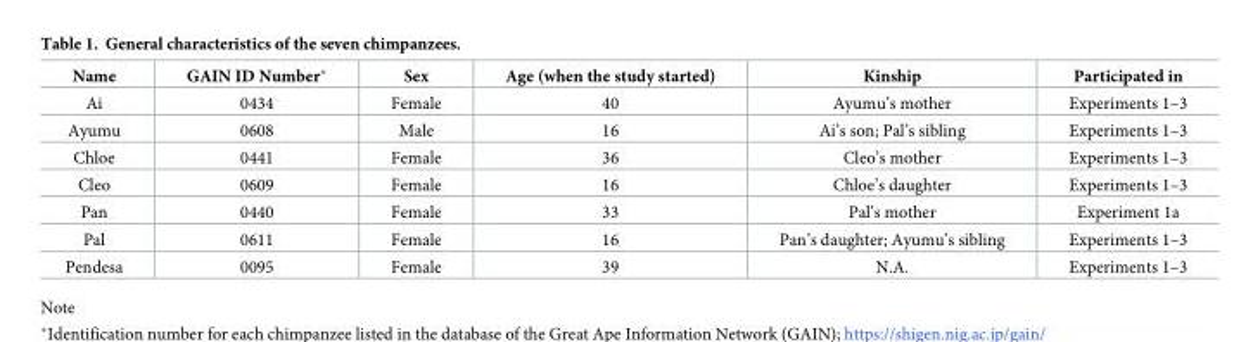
<table><thead><tr><td>Name</td><td>GAIN ID Number*</td><td>Sex</td><td>Age (when the study started)</td><td>Kinship</td><td>Participated in</td></tr></thead><tbody><tr><td>Ai</td><td>0434</td><td>Female</td><td>40</td><td>Ayumu’s mother</td><td>Experiments 1–3</td></tr><tr><td>Ayumu</td><td>0608</td><td>Male</td><td>16</td><td>Ai’s son; Pal’s sibling</td><td>Experiments 1–3</td></tr><tr><td>Chloe</td><td>0441</td><td>Female</td><td>36</td><td>Cleo’s mother</td><td>Experiments 1–3</td></tr><tr><td>Cleo</td><td>0609</td><td>Female</td><td>16</td><td>Chloe’s daughter</td><td>Experiments 1–3</td></tr><tr><td>Pan</td><td>0440</td><td>Female</td><td>33</td><td>Pal’s mother</td><td>Experiment 1a</td></tr><tr><td>Pal</td><td>0611</td><td>Female</td><td>16</td><td>Pan’s daughter; Ayumu’s sibling</td><td>Experiments 1–3</td></tr><tr><td>Pendesa</td><td>0095</td><td>Female</td><td>39</td><td>N.A.</td><td>Experiments 1–3</td></tr></tbody></table>